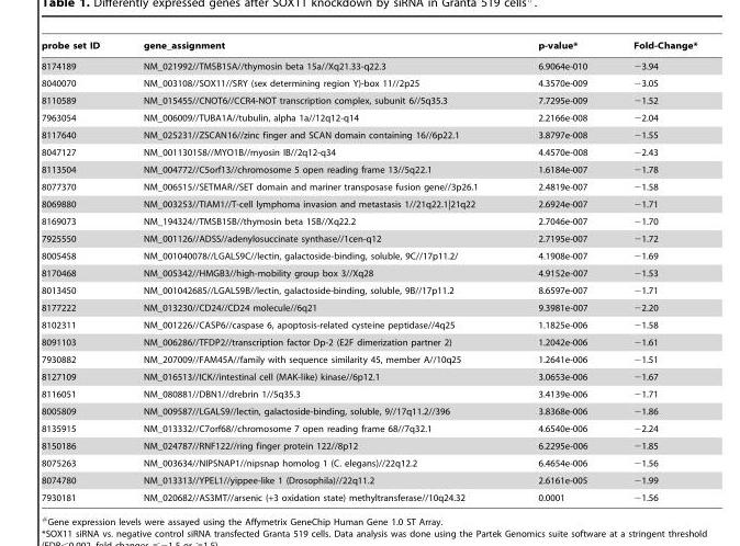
<table><thead><tr><td>probe set ID</td><td>gene_assignment</td><td>p-value*</td><td>Fold-Change*</td></tr></thead><tbody><tr><td>8174189</td><td>NM_021992//TMSB15A//thymosin beta 15a//Xq21.33-q22.3</td><td>6.9064e-010</td><td>−3.94</td></tr><tr><td>8040070</td><td>NM_003108//SOX11//SRY (sex determining region Y)-box 11//2p25</td><td>4.3570e-009</td><td>−3.05</td></tr><tr><td>8110589</td><td>NM_015455//CNOT6//CCR4-NOT transcription complex, subunit 6//5q35.3</td><td>7.7295e-009</td><td>−1.52</td></tr><tr><td>7963054</td><td>NM_006009//TUBA1A//tubulin, alpha 1a//12q12-q14</td><td>2.2166e-008</td><td>−2.04</td></tr><tr><td>8117640</td><td>NM_025231//ZSCAN16//zinc finger and SCAN domain containing 16//6p22.1</td><td>3.8797e-008</td><td>−1.55</td></tr><tr><td>8047127</td><td>NM_001130158//MYO1B//myosin IB//2q12-q34</td><td>4.4570e-008</td><td>−2.43</td></tr><tr><td>8113504</td><td>NM_004772//C5orf13//chromosome 5 open reading frame 13//5q22.1</td><td>1.6184e-007</td><td>−1.78</td></tr><tr><td>8077370</td><td>NM_006515//SETMAR//SET domain and mariner transposase fusion gene//3p26.1</td><td>2.4819e-007</td><td>−1.58</td></tr><tr><td>8069880</td><td>NM_003253//TIAM1//T-cell lymphoma invasion and metastasis 1//21q22.1|21q22</td><td>2.6924e-007</td><td>−1.71</td></tr><tr><td>8169073</td><td>NM_194324//TMSB15B//thymosin beta 15B//Xq22.2</td><td>2.7046e-007</td><td>−1.70</td></tr><tr><td>7925550</td><td>NM_001126//ADSS//adenylosuccinate synthase//1cen-q12</td><td>2.7195e-007</td><td>−1.72</td></tr><tr><td>8005458</td><td>NM_001040078//LGALS9C//lectin, galactoside-binding, soluble, 9C//17p11.2/</td><td>4.1908e-007</td><td>−1.69</td></tr><tr><td>8170468</td><td>NM_005342//HMGB3//high-mobility group box 3//Xq28</td><td>4.9152e-007</td><td>−1.53</td></tr><tr><td>8013450</td><td>NM_001042685//LGALS9B//lectin, galactoside-binding, soluble, 9B//17p11.2</td><td>8.6597e-007</td><td>−1.71</td></tr><tr><td>8177222</td><td>NM_013230//CD24//CD24 molecule//6q21</td><td>9.3981e-007</td><td>−2.20</td></tr><tr><td>8102311</td><td>NM_001226//CASP6//caspase 6, apoptosis-related cysteine peptidase//4q25</td><td>1.1825e-006</td><td>−1.58</td></tr><tr><td>8091103</td><td>NM_006286//TFDP2//transcription factor Dp-2 (E2F dimerization partner 2)</td><td>1.2042e-006</td><td>−1.61</td></tr><tr><td>7930882</td><td>NM_207009//FAM45A//family with sequence similarity 45, member A//10q25</td><td>1.2641e-006</td><td>−1.51</td></tr><tr><td>8127109</td><td>NM_016513//ICK//intestinal cell (MAK-like) kinase//6p12.1</td><td>3.0653e-006</td><td>−1.67</td></tr><tr><td>8116051</td><td>NM_080881//DBN1//drebrin 1//5q35.3</td><td>3.4139e-006</td><td>−1.71</td></tr><tr><td>8005809</td><td>NM_009587//LGALS9//lectin, galactoside-binding, soluble, 9//17q11.2//396</td><td>3.8368e-006</td><td>−1.86</td></tr><tr><td>8135915</td><td>NM_013332//C7orf68//chromosome 7 open reading frame 68//7q32.1</td><td>4.6540e-006</td><td>−2.24</td></tr><tr><td>8150186</td><td>NM_024787//RNF122//ring finger protein 122//8p12</td><td>6.2295e-006</td><td>−1.85</td></tr><tr><td>8075263</td><td>NM_003634//NIPSNAP1//nipsnap homolog 1 (C. elegans)//22q12.2</td><td>6.4654e-006</td><td>−1.56</td></tr><tr><td>8074780</td><td>NM_013313//YPEL1//yippee-like 1 (Drosophila)//22q11.2</td><td>2.6161e-005</td><td>−1.99</td></tr><tr><td>7930181</td><td>NM_020682//AS3MT//arsenic (+3 oxidation state) methyltransferase//10q24.32</td><td>0.0001</td><td>−1.56</td></tr></tbody></table>